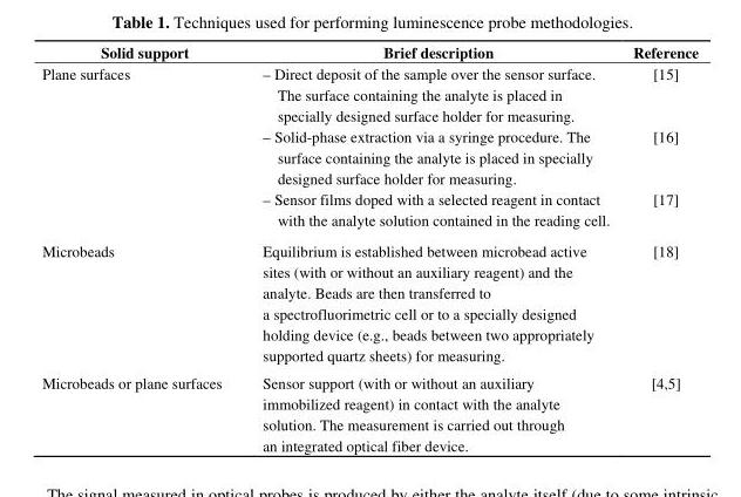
<table><thead><tr><td>Solid support</td><td>Brief description</td><td>Reference</td></tr></thead><tbody><tr><td rowspan="3">Plane surfaces</td><td>– Direct deposit of the sample over the sensor surface. The surface containing the analyte is placed in specially designed surface holder for measuring.</td><td>[15]</td></tr><tr><td>– Solid-phase extraction via a syringe procedure. The surface containing the analyte is placed in specially designed surface holder for measuring.</td><td>[16]</td></tr><tr><td>– Sensor films doped with a selected reagent in contact with the analyte solution contained in the reading cell.</td><td>[17]</td></tr><tr><td>Microbeads</td><td>Equilibrium is established between microbead active sites (with or without an auxiliary reagent) and the analyte. Beads are then transferred to a spectrofluorimetric cell or to a specially designed holding device (e.g., beads between two appropriately supported quartz sheets) for measuring.</td><td>[18]</td></tr><tr><td>Microbeads or plane surfaces</td><td>Sensor support (with or without an auxiliary immobilized reagent) in contact with the analyte solution. The measurement is carried out through an integrated optical fiber device.</td><td>[4,5]</td></tr></tbody></table>